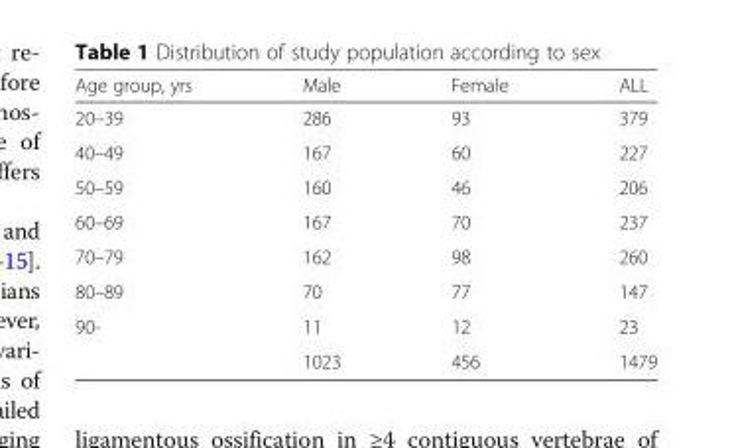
<table><thead><tr><td>Age group, yrs</td><td>Male</td><td>Female</td><td>ALL</td></tr></thead><tbody><tr><td>20–39</td><td>286</td><td>93</td><td>379</td></tr><tr><td>40–49</td><td>167</td><td>60</td><td>227</td></tr><tr><td>50–59</td><td>160</td><td>46</td><td>206</td></tr><tr><td>60–69</td><td>167</td><td>70</td><td>237</td></tr><tr><td>70–79</td><td>162</td><td>98</td><td>260</td></tr><tr><td>80–89</td><td>70</td><td>77</td><td>147</td></tr><tr><td rowspan="2">90-</td><td>11</td><td>12</td><td>23</td></tr><tr><td>1023</td><td>456</td><td>1479</td></tr></tbody></table>